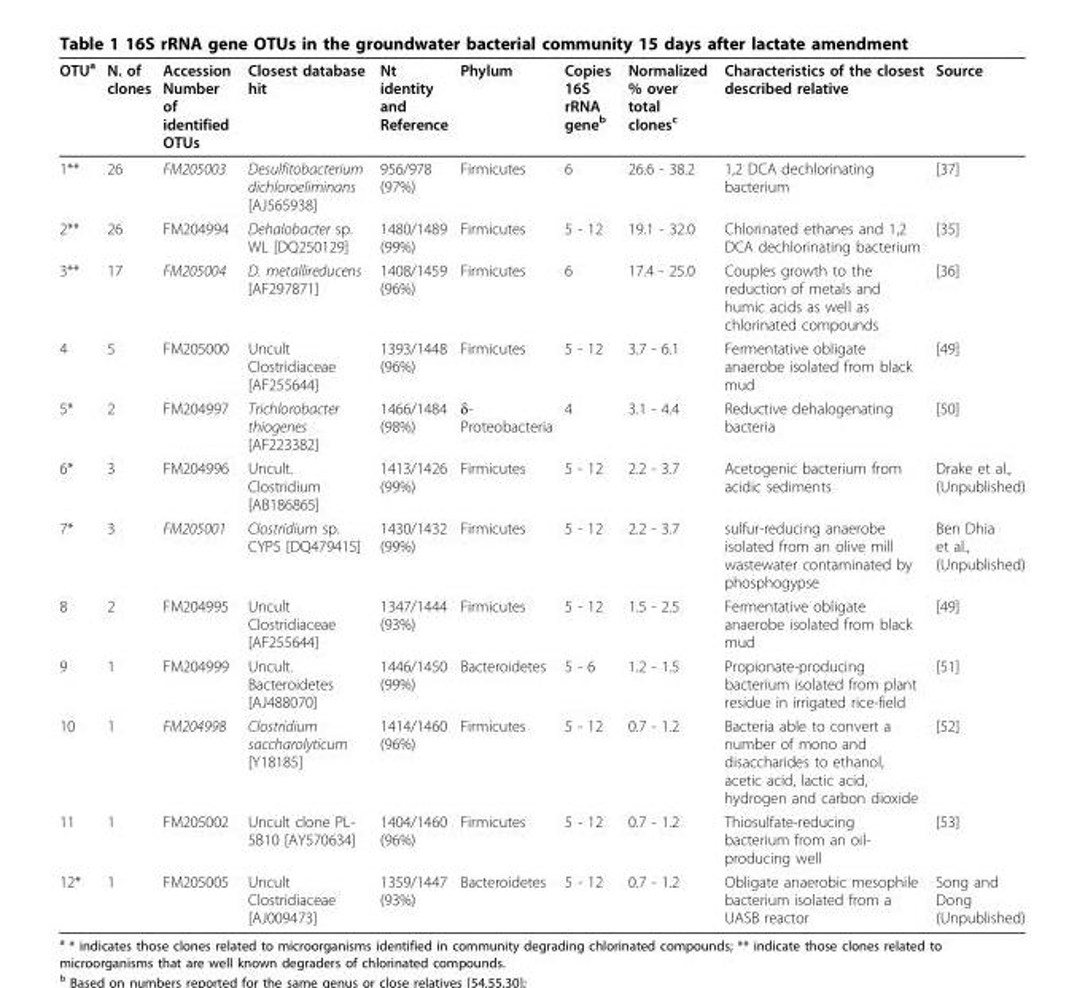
<table><thead><tr><td>OTU<sup>a</sup></td><td>N. of clones</td><td>Accession Number of identified OTUs</td><td>Closest database hit</td><td>Nt identity and Reference</td><td>Phylum</td><td>Copies 16S rRNA gene<sup>b</sup></td><td>Normalized % over total clones<sup>c</sup></td><td>Characteristics of the closest described relative</td><td>Source</td></tr></thead><tbody><tr><td>1**</td><td>26</td><td>FM205003</td><td>Desulfitobacterium dichloroeliminans [AJ565938]</td><td>956/978 (97%)</td><td>Firmicutes</td><td>6</td><td>26.6 - 38.2</td><td>1,2 DCA dechlorinating bacterium</td><td>[37]</td></tr><tr><td>2**</td><td>26</td><td>FM204994</td><td>Dehalobacter sp. WL [DQ250129]</td><td>1480/1489 (99%)</td><td>Firmicutes</td><td>5 - 12</td><td>19.1 - 32.0</td><td>Chlorinated ethanes and 1,2 DCA dechlorinating bacterium</td><td>[35]</td></tr><tr><td>3**</td><td>17</td><td>FM205004</td><td>D. metallireducens [AF297871]</td><td>1408/1459 (96%)</td><td>Firmicutes</td><td>6</td><td>17.4 - 25.0</td><td>Couples growth to the reduction of metals and humic acids as well as chlorinated compounds</td><td>[36]</td></tr><tr><td>4</td><td>5</td><td>FM205000</td><td>Uncult Clostridiaceae [AF255644]</td><td>1393/1448 (96%)</td><td>Firmicutes</td><td>5 - 12</td><td>3.7 - 6.1</td><td>Fermentative obligate anaerobe isolated from black mud</td><td>[49]</td></tr><tr><td>5*</td><td>2</td><td>FM204997</td><td>Trichlorobacter thiogenes [AF223382]</td><td>1466/1484 (98%)</td><td>δ- Proteobacteria</td><td>4</td><td>3.1 - 4.4</td><td>Reductive dehalogenating bacteria</td><td>[50]</td></tr><tr><td>6*</td><td>3</td><td>FM204996</td><td>Uncult. Clostridium [AB186865]</td><td>1413/1426 (99%)</td><td>Firmicutes</td><td>5 - 12</td><td>2.2 - 3.7</td><td>Acetogenic bacterium from acidic sediments</td><td>Drake et al., (Unpublished)</td></tr><tr><td>7*</td><td>3</td><td>FM205001</td><td>Clostridium sp. CYP5 [DQ479415]</td><td>1430/1432 (99%)</td><td>Firmicutes</td><td>5 - 12</td><td>2.2 - 3.7</td><td>sulfur-reducing anaerobe isolated from an olive mill wastewater contaminated by phosphogypse</td><td>Ben Dhia et al., (Unpublished)</td></tr><tr><td>8</td><td>2</td><td>FM204995</td><td>Uncult Clostridiaceae [AF255644]</td><td>1347/1444 (93%)</td><td>Firmicutes</td><td>5 - 12</td><td>1.5 - 2.5</td><td>Fermentative obligate anaerobe isolated from black mud</td><td>[49]</td></tr><tr><td>9</td><td>1</td><td>FM204999</td><td>Uncult. Bacteroidetes [AJ488070]</td><td>1446/1450 (99%)</td><td>Bacteroidetes</td><td>5 - 6</td><td>1.2 - 1.5</td><td>Propionate-producing bacterium isolated from plant residue in irrigated rice-field</td><td>[51]</td></tr><tr><td>10</td><td>1</td><td>FM204998</td><td>Clostridium saccharolyticum [Y18185]</td><td>1414/1460 (96%)</td><td>Firmicutes</td><td>5 - 12</td><td>0.7 - 1.2</td><td>Bacteria able to convert a number of mono and disaccharides to ethanol, acetic acid, lactic acid, hydrogen and carbon dioxide</td><td>[52]</td></tr><tr><td>11</td><td>1</td><td>FM205002</td><td>Uncult clone PL- 5B10 [AY570634]</td><td>1404/1460 (96%)</td><td>Firmicutes</td><td>5 - 12</td><td>0.7 - 1.2</td><td>Thiosulfate-reducing bacterium from an oil- producing well</td><td>[53]</td></tr><tr><td>12*</td><td>1</td><td>FM205005</td><td>Uncult Clostridiaceae [AJ009473]</td><td>1359/1447 (93%)</td><td>Bacteroidetes</td><td>5 - 12</td><td>0.7 - 1.2</td><td>Obligate anaerobic mesophile bacterium isolated from a UASB reactor</td><td>Song and Dong (Unpublished)</td></tr></tbody></table>